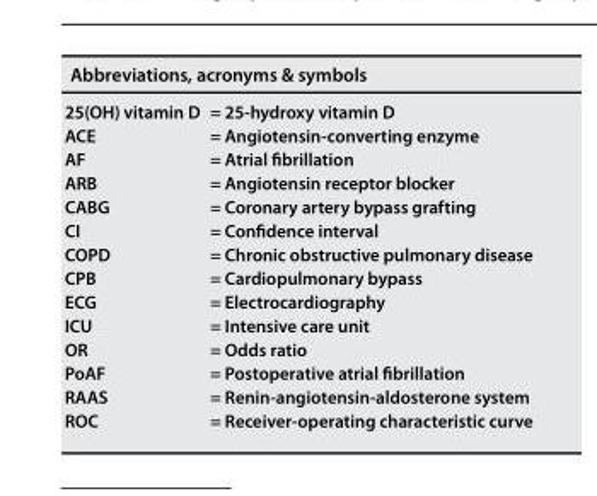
<table><thead><tr><td colspan="2">Abbreviations, acronyms &amp; symbols</td></tr><tr><td>25(OH) vitamin D</td><td>= 25-hydroxy vitamin D</td></tr></thead><tbody><tr><td>ACE</td><td>= Angiotensin-converting enzyme</td></tr><tr><td>AF</td><td>= Atrial fibrillation</td></tr><tr><td>ARB</td><td>= Angiotensin receptor blocker</td></tr><tr><td>CABG</td><td>= Coronary artery bypass grafting</td></tr><tr><td>CI</td><td>= Confidence interval</td></tr><tr><td>COPD</td><td>= Chronic obstructive pulmonary disease</td></tr><tr><td>CPB</td><td>= Cardiopulmonary bypass</td></tr><tr><td>ECG</td><td>= Electrocardiography</td></tr><tr><td>ICU</td><td>= Intensive care unit</td></tr><tr><td>OR</td><td>= Odds ratio</td></tr><tr><td>PoAF</td><td>= Postoperative atrial fibrillation</td></tr><tr><td>RAAS</td><td>= Renin-angiotensin-aldosterone system</td></tr><tr><td>ROC</td><td>= Receiver-operating characteristic curve</td></tr></tbody></table>